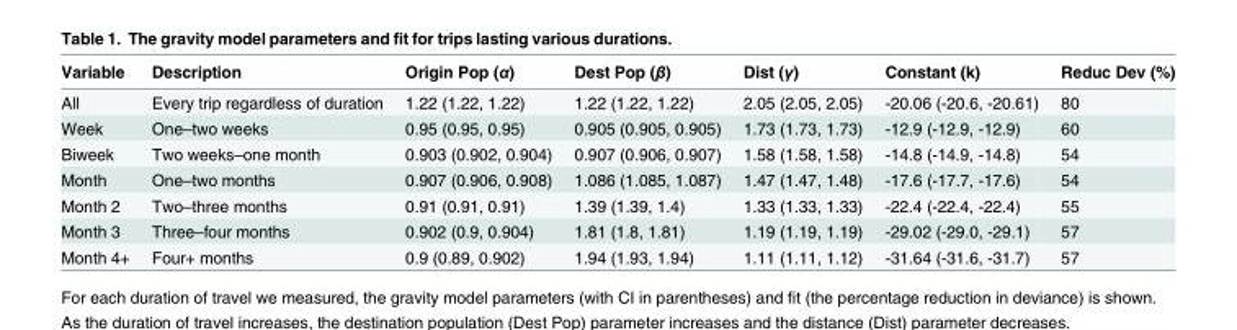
<table><thead><tr><td>Variable</td><td>Description</td><td>Origin Pop (α)</td><td>Dest Pop (β)</td><td>Dist (γ)</td><td>Constant (k)</td><td>Reduc Dev (%)</td></tr></thead><tbody><tr><td>All</td><td>Every trip regardless of duration</td><td>1.22 (1.22, 1.22)</td><td>1.22 (1.22, 1.22)</td><td>2.05 (2.05, 2.05)</td><td>-20.06 (-20.6, -20.61)</td><td>80</td></tr><tr><td>Week</td><td>One–two weeks</td><td>0.95 (0.95, 0.95)</td><td>0.905 (0.905, 0.905)</td><td>1.73 (1.73, 1.73)</td><td>-12.9 (-12.9, -12.9)</td><td>60</td></tr><tr><td>Biweek</td><td>Two weeks–one month</td><td>0.903 (0.902, 0.904)</td><td>0.907 (0.906, 0.907)</td><td>1.58 (1.58, 1.58)</td><td>-14.8 (-14.9, -14.8)</td><td>54</td></tr><tr><td>Month</td><td>One–two months</td><td>0.907 (0.906, 0.908)</td><td>1.086 (1.085, 1.087)</td><td>1.47 (1.47, 1.48)</td><td>-17.6 (-17.7, -17.6)</td><td>54</td></tr><tr><td>Month 2</td><td>Two–three months</td><td>0.91 (0.91, 0.91)</td><td>1.39 (1.39, 1.4)</td><td>1.33 (1.33, 1.33)</td><td>-22.4 (-22.4, -22.4)</td><td>55</td></tr><tr><td>Month 3</td><td>Three–four months</td><td>0.902 (0.9, 0.904)</td><td>1.81 (1.8, 1.81)</td><td>1.19 (1.19, 1.19)</td><td>-29.02 (-29.0, -29.1)</td><td>57</td></tr><tr><td>Month 4+</td><td>Four+ months</td><td>0.9 (0.89, 0.902)</td><td>1.94 (1.93, 1.94)</td><td>1.11 (1.11, 1.12)</td><td>-31.64 (-31.6, -31.7)</td><td>57</td></tr></tbody></table>